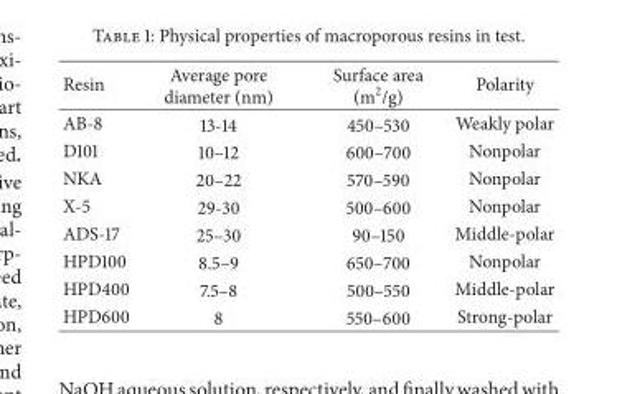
<table><thead><tr><td>Resin</td><td>Average pore diameter (nm)</td><td>Surface area (m<sup>2</sup>/g)</td><td>Polarity</td></tr></thead><tbody><tr><td>AB-8</td><td>13-14</td><td>450–530</td><td>Weakly polar</td></tr><tr><td>D101</td><td>10–12</td><td>600–700</td><td>Nonpolar</td></tr><tr><td>NKA</td><td>20–22</td><td>570–590</td><td>Nonpolar</td></tr><tr><td>X-5</td><td>29-30</td><td>500–600</td><td>Nonpolar</td></tr><tr><td>ADS-17</td><td>25–30</td><td>90–150</td><td>Middle-polar</td></tr><tr><td>HPD100</td><td>8.5–9</td><td>650–700</td><td>Nonpolar</td></tr><tr><td>HPD400</td><td>7.5–8</td><td>500–550</td><td>Middle-polar</td></tr><tr><td>HPD600</td><td>8</td><td>550–600</td><td>Strong-polar</td></tr></tbody></table>